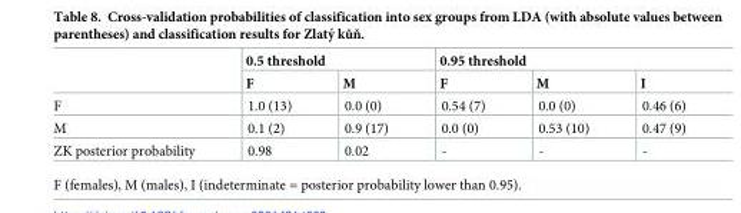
<table><thead><tr><td rowspan="2"></td><td colspan="2">0.5 threshold</td><td colspan="3">0.95 threshold</td></tr><tr><td>F</td><td>M</td><td>F</td><td>M</td><td>I</td></tr></thead><tbody><tr><td>F</td><td>1.0 (13)</td><td>0.0 (0)</td><td>0.54 (7)</td><td>0.0 (0)</td><td>0.46 (6)</td></tr><tr><td>M</td><td>0.1 (2)</td><td>0.9 (17)</td><td>0.0 (0)</td><td>0.53 (10)</td><td>0.47 (9)</td></tr><tr><td>ZK posterior probability</td><td>0.98</td><td>0.02</td><td>-</td><td>-</td><td>-</td></tr></tbody></table>